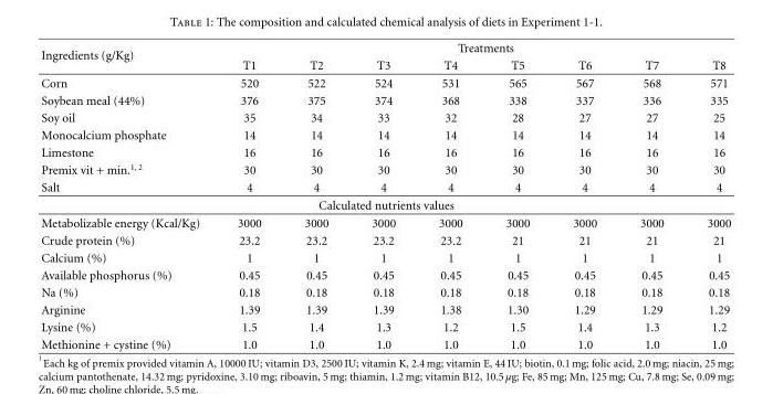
<table><thead><tr><td rowspan="2">Ingredients (g/Kg)</td><td colspan="8">Treatments</td></tr><tr><td>T1</td><td>T2</td><td>T3</td><td>T4</td><td>T5</td><td>T6</td><td>T7</td><td>T8</td></tr></thead><tbody><tr><td>Corn</td><td>520</td><td>522</td><td>524</td><td>531</td><td>565</td><td>567</td><td>568</td><td>571</td></tr><tr><td>Soybean meal (44%)</td><td>376</td><td>375</td><td>374</td><td>368</td><td>338</td><td>337</td><td>336</td><td>335</td></tr><tr><td>Soy oil</td><td>35</td><td>34</td><td>33</td><td>32</td><td>28</td><td>27</td><td>27</td><td>25</td></tr><tr><td>Monocalcium phosphate</td><td>14</td><td>14</td><td>14</td><td>14</td><td>14</td><td>14</td><td>14</td><td>14</td></tr><tr><td>Limestone</td><td>16</td><td>16</td><td>16</td><td>16</td><td>16</td><td>16</td><td>16</td><td>16</td></tr><tr><td>Premix vit + min.<sup>1, 2</sup></td><td>30</td><td>30</td><td>30</td><td>30</td><td>30</td><td>30</td><td>30</td><td>30</td></tr><tr><td>Salt</td><td>4</td><td>4</td><td>4</td><td>4</td><td>4</td><td>4</td><td>4</td><td>4</td></tr><tr><td colspan="9">Calculated nutrients values</td></tr><tr><td>Metabolizable energy (Kcal/Kg)</td><td>3000</td><td>3000</td><td>3000</td><td>3000</td><td>3000</td><td>3000</td><td>3000</td><td>3000</td></tr><tr><td>Crude protein (%)</td><td>23.2</td><td>23.2</td><td>23.2</td><td>23.2</td><td>21</td><td>21</td><td>21</td><td>21</td></tr><tr><td>Calcium (%)</td><td>1</td><td>1</td><td>1</td><td>1</td><td>1</td><td>1</td><td>1</td><td>1</td></tr><tr><td>Available phosphorus (%)</td><td>0.45</td><td>0.45</td><td>0.45</td><td>0.45</td><td>0.45</td><td>0.45</td><td>0.45</td><td>0.45</td></tr><tr><td>Na (%)</td><td>0.18</td><td>0.18</td><td>0.18</td><td>0.18</td><td>0.18</td><td>0.18</td><td>0.18</td><td>0.18</td></tr><tr><td>Arginine</td><td>1.39</td><td>1.39</td><td>1.39</td><td>1.38</td><td>1.30</td><td>1.29</td><td>1.29</td><td>1.29</td></tr><tr><td>Lysine (%)</td><td>1.5</td><td>1.4</td><td>1.3</td><td>1.2</td><td>1.5</td><td>1.4</td><td>1.3</td><td>1.2</td></tr><tr><td>Methionine + cystine (%)</td><td>1.0</td><td>1.0</td><td>1.0</td><td>1.0</td><td>1.0</td><td>1.0</td><td>1.0</td><td>1.0</td></tr></tbody></table>